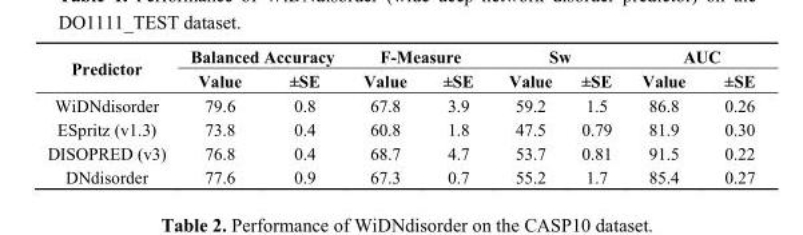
<table><thead><tr><td rowspan="2">Predictor</td><td colspan="2">Balanced Accuracy</td><td colspan="2">F-Measure</td><td colspan="2">Sw</td><td colspan="2">AUC</td></tr><tr><td>Value</td><td>±SE</td><td>Value</td><td>±SE</td><td>Value</td><td>±SE</td><td>Value</td><td>±SE</td></tr></thead><tbody><tr><td>WiDNdisorder</td><td>79.6</td><td>0.8</td><td>67.8</td><td>3.9</td><td>59.2</td><td>1.5</td><td>86.8</td><td>0.26</td></tr><tr><td>ESpritz (v1.3)</td><td>73.8</td><td>0.4</td><td>60.8</td><td>1.8</td><td>47.5</td><td>0.79</td><td>81.9</td><td>0.30</td></tr><tr><td>DISOPRED (v3)</td><td>76.8</td><td>0.4</td><td>68.7</td><td>4.7</td><td>53.7</td><td>0.81</td><td>91.5</td><td>0.22</td></tr><tr><td>DNdisorder</td><td>77.6</td><td>0.9</td><td>67.3</td><td>0.7</td><td>55.2</td><td>1.7</td><td>85.4</td><td>0.27</td></tr></tbody></table>